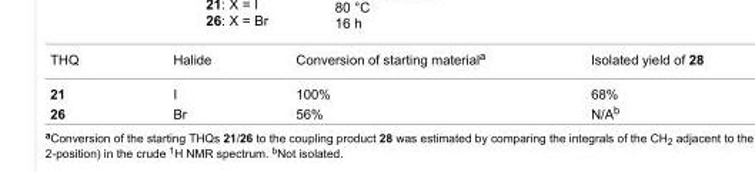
<table><tbody><tr><td>THQ</td><td>Halide</td><td>Conversion of starting material<sup>a</sup></td><td>Isolated yield of 28</td></tr><tr><td>21</td><td>I</td><td>100%</td><td>68%</td></tr><tr><td>26</td><td>Br</td><td>56%</td><td>N/A<sup>b</sup></td></tr></tbody></table>